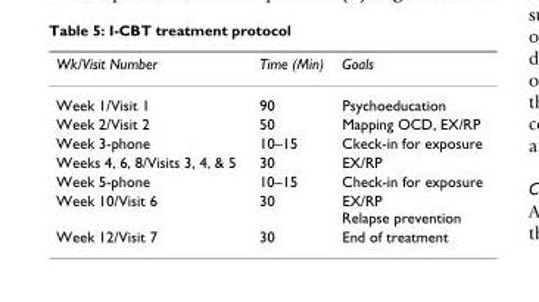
<table><thead><tr><td>Wk/Visit Number</td><td>Time (Min)</td><td>Goals</td></tr></thead><tbody><tr><td>Week 1/Visit 1</td><td>90</td><td>Psychoeducation</td></tr><tr><td>Week 2/Visit 2</td><td>50</td><td>Mapping OCD, EX/RP</td></tr><tr><td>Week 3-phone</td><td>10–15</td><td>Ckeck-in for exposure</td></tr><tr><td>Weeks 4, 6, 8/Visits 3, 4, &amp; 5</td><td>30</td><td>EX/RP</td></tr><tr><td>Week 5-phone</td><td>10–15</td><td>Check-in for exposure</td></tr><tr><td>Week 10/Visit 6</td><td>30</td><td>EX/RP Relapse prevention</td></tr><tr><td>Week 12/Visit 7</td><td>30</td><td>End of treatment</td></tr></tbody></table>